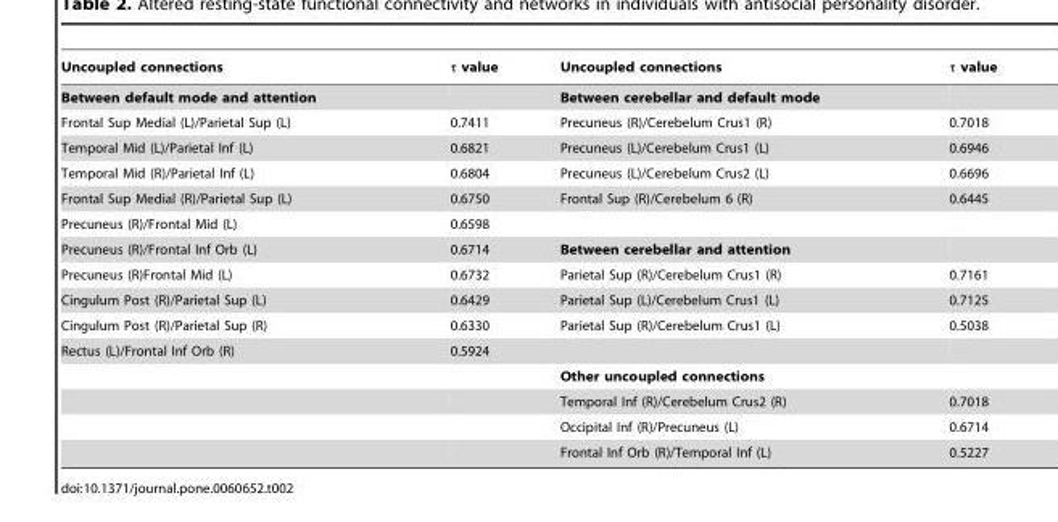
<table><thead><tr><td>Uncoupled connections</td><td>τ value</td><td>Uncoupled connections</td><td>τ value</td></tr></thead><tbody><tr><td>Between default mode and attention</td><td></td><td>Between cerebellar and default mode</td><td></td></tr><tr><td>Frontal Sup Medial (L)/Parietal Sup (L)</td><td>0.7411</td><td>Precuneus (R)/Cerebelum Crus1 (R)</td><td>0.7018</td></tr><tr><td>Temporal Mid (L)/Parietal Inf (L)</td><td>0.6821</td><td>Precuneus (L)/Cerebelum Crus1 (L)</td><td>0.6946</td></tr><tr><td>Temporal Mid (R)/Parietal Inf (L)</td><td>0.6804</td><td>Precuneus (L)/Cerebelum Crus2 (L)</td><td>0.6696</td></tr><tr><td>Frontal Sup Medial (R)/Parietal Sup (L)</td><td>0.6750</td><td>Frontal Sup (R)/Cerebelum 6 (R)</td><td>0.6445</td></tr><tr><td>Precuneus (R)/Frontal Mid (L)</td><td>0.6598</td><td></td><td></td></tr><tr><td>Precuneus (R)/Frontal Inf Orb (L)</td><td>0.6714</td><td>Between cerebellar and attention</td><td></td></tr><tr><td>Precuneus (R)Frontal Mid (L)</td><td>0.6732</td><td>Parietal Sup (R)/Cerebelum Crus1 (R)</td><td>0.7161</td></tr><tr><td>Cingulum Post (R)/Parietal Sup (L)</td><td>0.6429</td><td>Parietal Sup (L)/Cerebelum Crus1 (L)</td><td>0.7125</td></tr><tr><td>Cingulum Post (R)/Parietal Sup (R)</td><td>0.6330</td><td>Parietal Sup (R)/Cerebelum Crus1 (L)</td><td>0.5038</td></tr><tr><td rowspan="5">Rectus (L)/Frontal Inf Orb (R)</td><td>0.5924</td><td></td><td></td></tr><tr><td></td><td>Other uncoupled connections</td><td></td></tr><tr><td></td><td>Temporal Inf (R)/Cerebelum Crus2 (R)</td><td>0.7018</td></tr><tr><td></td><td>Occipital Inf (R)/Precuneus (L)</td><td>0.6714</td></tr><tr><td></td><td>Frontal Inf Orb (R)/Temporal Inf (L)</td><td>0.5227</td></tr></tbody></table>